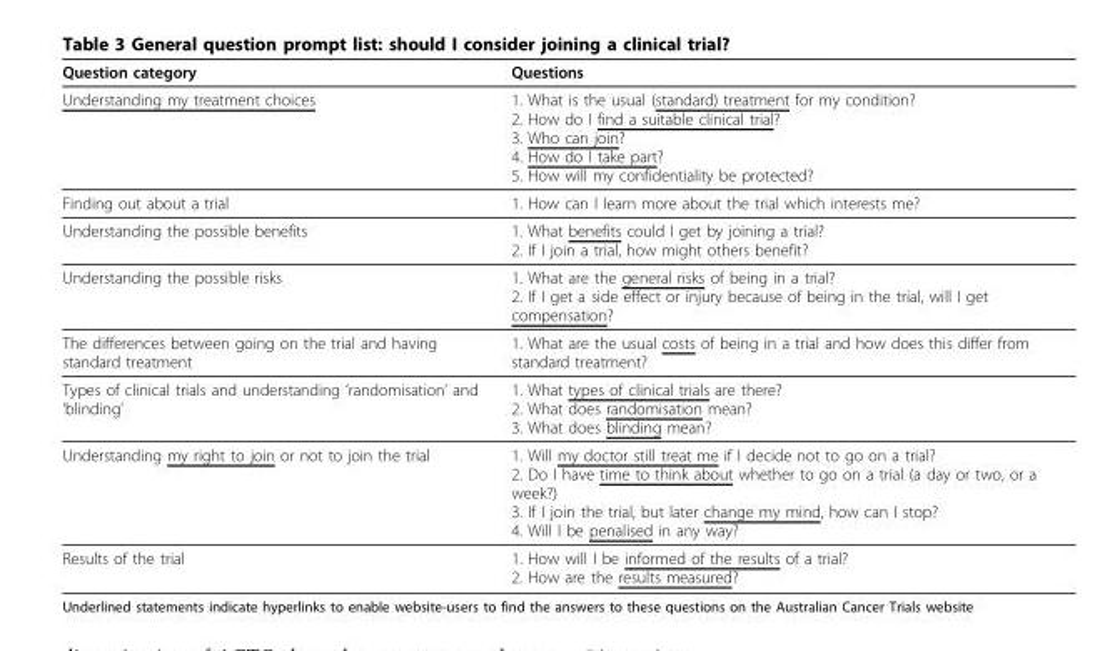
<table><thead><tr><td>Question category</td><td>Questions</td></tr></thead><tbody><tr><td>Understanding my treatment choices</td><td>1. What is the usual (standard) treatment for my condition? 2. How do I find a suitable clinical trial? 3. Who can join? 4. How do I take part? 5. How will my confidentiality be protected?</td></tr><tr><td>Finding out about a trial</td><td>1. How can I learn more about the trial which interests me?</td></tr><tr><td>Understanding the possible benefits</td><td>1. What benefits could I get by joining a trial? 2. If I join a trial, how might others benefit?</td></tr><tr><td>Understanding the possible risks</td><td>1. What are the general risks of being in a trial? 2. If I get a side effect or injury because of being in the trial, will I get compensation?</td></tr><tr><td>The differences between going on the trial and having standard treatment</td><td>1. What are the usual costs of being in a trial and how does this differ from standard treatment?</td></tr><tr><td>Types of clinical trials and understanding ‘randomisation’ and ‘blinding’</td><td>1. What types of clinical trials are there? 2. What does randomisation mean? 3. What does blinding mean?</td></tr><tr><td>Understanding my right to join or not to join the trial</td><td>1. Will my doctor still treat me if I decide not to go on a trial? 2. Do I have time to think about whether to go on a trial (a day or two, or a week?) 3. If I join the trial, but later change my mind, how can I stop? 4. Will I be penalised in any way?</td></tr><tr><td>Results of the trial</td><td>1. How will I be informed of the results of a trial? 2. How are the results measured?</td></tr></tbody></table>